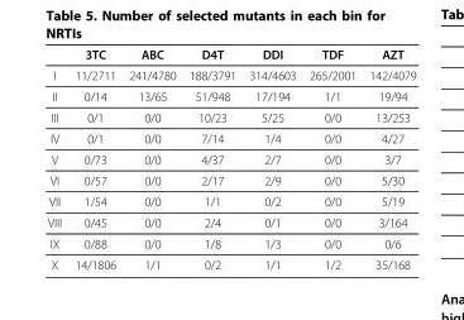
<table><thead><tr><td></td><td>3TC</td><td>ABC</td><td>D4T</td><td>DDI</td><td>TDF</td><td>AZT</td></tr></thead><tbody><tr><td>I</td><td>11/2711</td><td>241/4780</td><td>188/3791</td><td>314/4603</td><td>265/2001</td><td>142/4079</td></tr><tr><td>II</td><td>0/14</td><td>13/65</td><td>51/948</td><td>17/194</td><td>1/1</td><td>19/94</td></tr><tr><td>III</td><td>0/1</td><td>0/0</td><td>10/23</td><td>5/25</td><td>0/0</td><td>13/253</td></tr><tr><td>IV</td><td>0/1</td><td>0/0</td><td>7/14</td><td>1/4</td><td>0/0</td><td>4/27</td></tr><tr><td>V</td><td>0/73</td><td>0/0</td><td>4/37</td><td>2/7</td><td>0/0</td><td>3/7</td></tr><tr><td>VI</td><td>0/57</td><td>0/0</td><td>2/17</td><td>2/9</td><td>0/0</td><td>5/30</td></tr><tr><td>VII</td><td>1/54</td><td>0/0</td><td>1/1</td><td>0/2</td><td>0/0</td><td>5/19</td></tr><tr><td>VIII</td><td>0/45</td><td>0/0</td><td>2/4</td><td>0/1</td><td>0/0</td><td>3/164</td></tr><tr><td>IX</td><td>0/88</td><td>0/0</td><td>1/8</td><td>1/3</td><td>0/0</td><td>0/6</td></tr><tr><td>X</td><td>14/1806</td><td>1/1</td><td>0/2</td><td>1/1</td><td>1/2</td><td>35/168</td></tr></tbody></table>